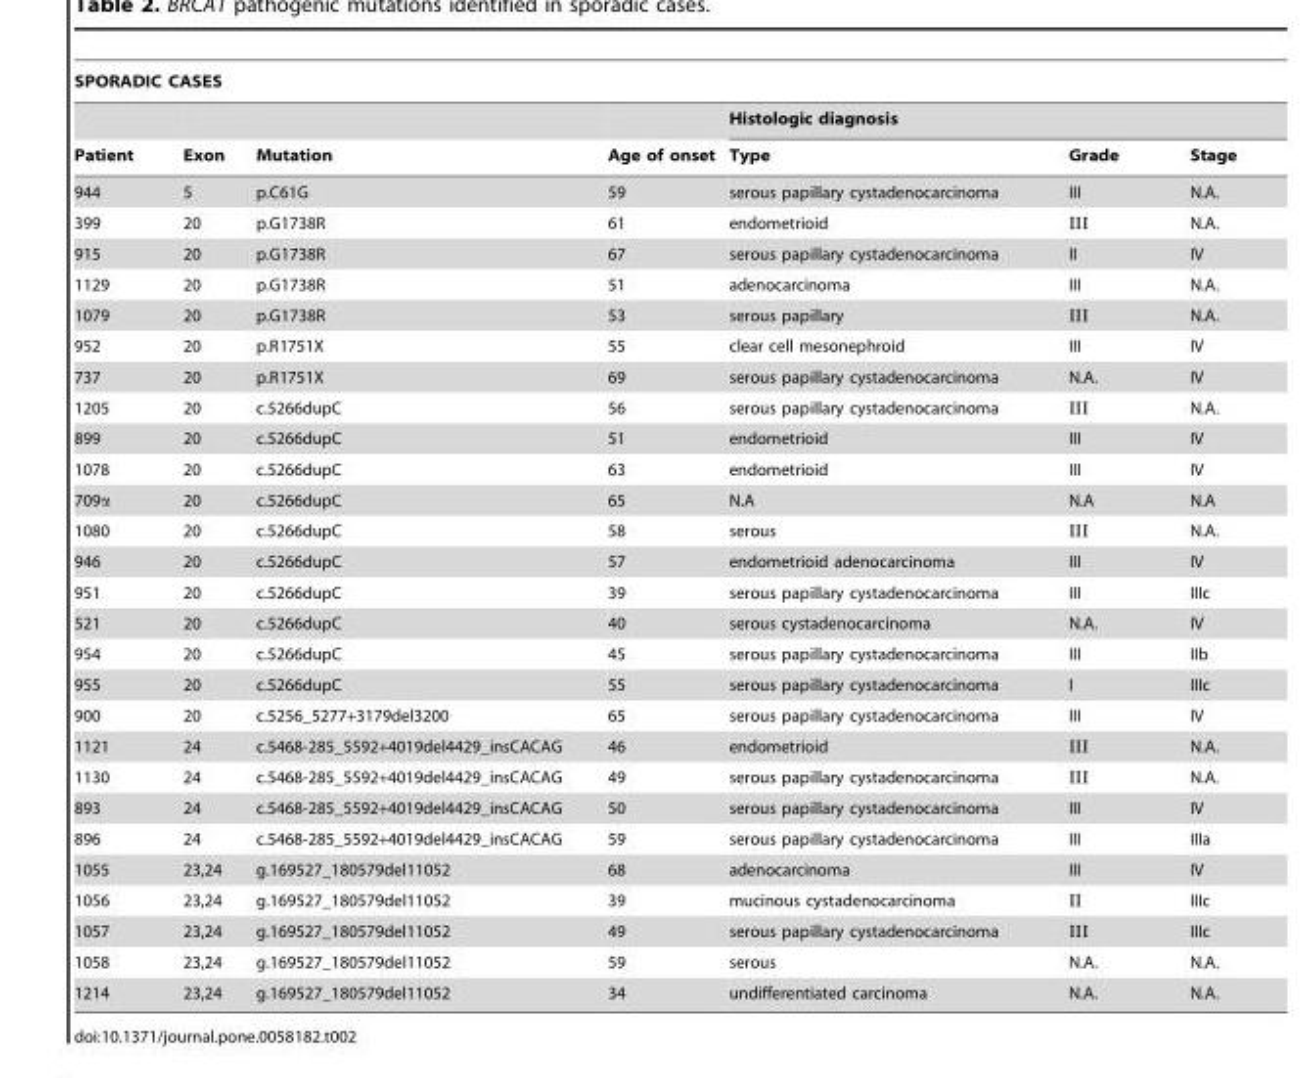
<table><thead><tr><td colspan="7">SPORADIC CASES</td></tr><tr><td rowspan="2">Patient</td><td rowspan="2">Exon</td><td rowspan="2">Mutation</td><td rowspan="2">Age of onset</td><td colspan="3">Histologic diagnosis</td></tr><tr><td>Type</td><td>Grade</td><td>Stage</td></tr></thead><tbody><tr><td>944</td><td>5</td><td>p.C61G</td><td>59</td><td>serous papillary cystadenocarcinoma</td><td>III</td><td>N.A.</td></tr><tr><td>399</td><td>20</td><td>p.G1738R</td><td>61</td><td>endometrioid</td><td>III</td><td>N.A.</td></tr><tr><td>915</td><td>20</td><td>p.G1738R</td><td>67</td><td>serous papillary cystadenocarcinoma</td><td>II</td><td>IV</td></tr><tr><td>1129</td><td>20</td><td>p.G1738R</td><td>51</td><td>adenocarcinoma</td><td>III</td><td>N.A.</td></tr><tr><td>1079</td><td>20</td><td>p.G1738R</td><td>53</td><td>serous papillary</td><td>III</td><td>N.A.</td></tr><tr><td>952</td><td>20</td><td>p.R1751X</td><td>55</td><td>clear cell mesonephroid</td><td>III</td><td>IV</td></tr><tr><td>737</td><td>20</td><td>p.R1751X</td><td>69</td><td>serous papillary cystadenocarcinoma</td><td>N.A.</td><td>IV</td></tr><tr><td>1205</td><td>20</td><td>c.5266dupC</td><td>56</td><td>serous papillary cystadenocarcinoma</td><td>III</td><td>N.A.</td></tr><tr><td>899</td><td>20</td><td>c.5266dupC</td><td>51</td><td>endometrioid</td><td>III</td><td>IV</td></tr><tr><td>1078</td><td>20</td><td>c.5266dupC</td><td>63</td><td>endometrioid</td><td>III</td><td>IV</td></tr><tr><td>709α</td><td>20</td><td>c.5266dupC</td><td>65</td><td>N.A</td><td>N.A</td><td>N.A</td></tr><tr><td>1080</td><td>20</td><td>c.5266dupC</td><td>58</td><td>serous</td><td>III</td><td>N.A.</td></tr><tr><td>946</td><td>20</td><td>c.5266dupC</td><td>57</td><td>endometrioid adenocarcinoma</td><td>III</td><td>IV</td></tr><tr><td>951</td><td>20</td><td>c.5266dupC</td><td>39</td><td>serous papillary cystadenocarcinoma</td><td>III</td><td>IIIc</td></tr><tr><td>521</td><td>20</td><td>c.5266dupC</td><td>40</td><td>serous cystadenocarcinoma</td><td>N.A.</td><td>IV</td></tr><tr><td>954</td><td>20</td><td>c.5266dupC</td><td>45</td><td>serous papillary cystadenocarcinoma</td><td>III</td><td>IIb</td></tr><tr><td>955</td><td>20</td><td>c.5266dupC</td><td>55</td><td>serous papillary cystadenocarcinoma</td><td>I</td><td>IIIc</td></tr><tr><td>900</td><td>20</td><td>c.5256_5277+3179del3200</td><td>65</td><td>serous papillary cystadenocarcinoma</td><td>III</td><td>IV</td></tr><tr><td>1121</td><td>24</td><td>c.5468-285_5592+4019del4429_insCACAG</td><td>46</td><td>endometrioid</td><td>III</td><td>N.A.</td></tr><tr><td>1130</td><td>24</td><td>c.5468-285_5592+4019del4429_insCACAG</td><td>49</td><td>serous papillary cystadenocarcinoma</td><td>III</td><td>N.A.</td></tr><tr><td>893</td><td>24</td><td>c.5468-285_5592+4019del4429_insCACAG</td><td>50</td><td>serous papillary cystadenocarcinoma</td><td>III</td><td>IV</td></tr><tr><td>896</td><td>24</td><td>c.5468-285_5592+4019del4429_insCACAG</td><td>59</td><td>serous papillary cystadenocarcinoma</td><td>III</td><td>IIIa</td></tr><tr><td>1055</td><td>23,24</td><td>g.169527_180579del11052</td><td>68</td><td>adenocarcinoma</td><td>III</td><td>IV</td></tr><tr><td>1056</td><td>23,24</td><td>g.169527_180579del11052</td><td>39</td><td>mucinous cystadenocarcinoma</td><td>II</td><td>IIIc</td></tr><tr><td>1057</td><td>23,24</td><td>g.169527_180579del11052</td><td>49</td><td>serous papillary cystadenocarcinoma</td><td>III</td><td>IIIc</td></tr><tr><td>1058</td><td>23,24</td><td>g.169527_180579del11052</td><td>59</td><td>serous</td><td>N.A.</td><td>N.A.</td></tr><tr><td>1214</td><td>23,24</td><td>g.169527_180579del11052</td><td>34</td><td>undifferentiated carcinoma</td><td>N.A.</td><td>N.A.</td></tr></tbody></table>